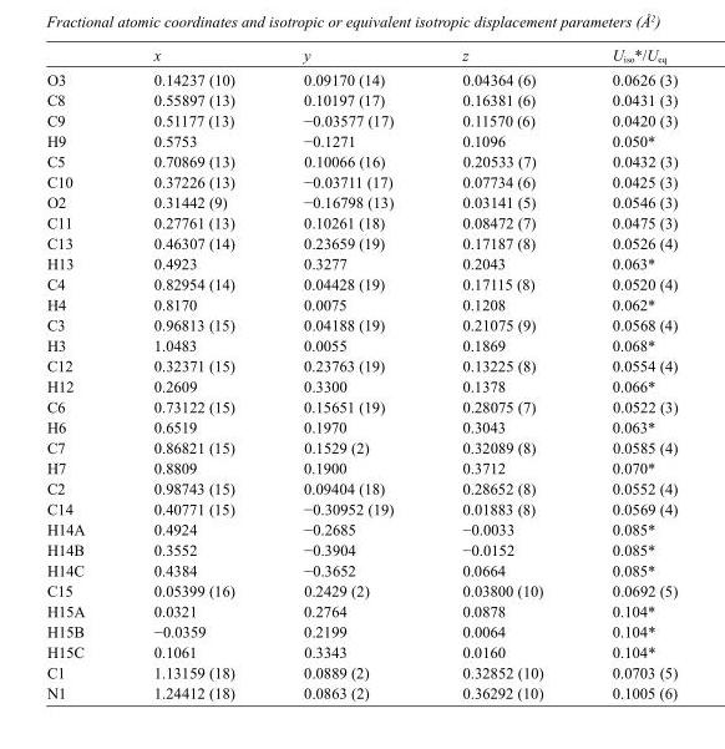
<table><thead><tr><td></td><td>x</td><td>y</td><td>z</td><td>U<sub>iso</sub>*/U<sub>eq</sub></td></tr></thead><tbody><tr><td>O3</td><td>0.14237 (10)</td><td>0.09170 (14)</td><td>0.04364 (6)</td><td>0.0626 (3)</td></tr><tr><td>C8</td><td>0.55897 (13)</td><td>0.10197 (17)</td><td>0.16381 (6)</td><td>0.0431 (3)</td></tr><tr><td>C9</td><td>0.51177 (13)</td><td>−0.03577 (17)</td><td>0.11570 (6)</td><td>0.0420 (3)</td></tr><tr><td>H9</td><td>0.5753</td><td>−0.1271</td><td>0.1096</td><td>0.050*</td></tr><tr><td>C5</td><td>0.70869 (13)</td><td>0.10066 (16)</td><td>0.20533 (7)</td><td>0.0432 (3)</td></tr><tr><td>C10</td><td>0.37226 (13)</td><td>−0.03711 (17)</td><td>0.07734 (6)</td><td>0.0425 (3)</td></tr><tr><td>O2</td><td>0.31442 (9)</td><td>−0.16798 (13)</td><td>0.03141 (5)</td><td>0.0546 (3)</td></tr><tr><td>C11</td><td>0.27761 (13)</td><td>0.10261 (18)</td><td>0.08472 (7)</td><td>0.0475 (3)</td></tr><tr><td>C13</td><td>0.46307 (14)</td><td>0.23659 (19)</td><td>0.17187 (8)</td><td>0.0526 (4)</td></tr><tr><td>H13</td><td>0.4923</td><td>0.3277</td><td>0.2043</td><td>0.063*</td></tr><tr><td>C4</td><td>0.82954 (14)</td><td>0.04428 (19)</td><td>0.17115 (8)</td><td>0.0520 (4)</td></tr><tr><td>H4</td><td>0.8170</td><td>0.0075</td><td>0.1208</td><td>0.062*</td></tr><tr><td>C3</td><td>0.96813 (15)</td><td>0.04188 (19)</td><td>0.21075 (9)</td><td>0.0568 (4)</td></tr><tr><td>H3</td><td>1.0483</td><td>0.0055</td><td>0.1869</td><td>0.068*</td></tr><tr><td>C12</td><td>0.32371 (15)</td><td>0.23763 (19)</td><td>0.13225 (8)</td><td>0.0554 (4)</td></tr><tr><td>H12</td><td>0.2609</td><td>0.3300</td><td>0.1378</td><td>0.066*</td></tr><tr><td>C6</td><td>0.73122 (15)</td><td>0.15651 (19)</td><td>0.28075 (7)</td><td>0.0522 (3)</td></tr><tr><td>H6</td><td>0.6519</td><td>0.1970</td><td>0.3043</td><td>0.063*</td></tr><tr><td>C7</td><td>0.86821 (15)</td><td>0.1529 (2)</td><td>0.32089 (8)</td><td>0.0585 (4)</td></tr><tr><td>H7</td><td>0.8809</td><td>0.1900</td><td>0.3712</td><td>0.070*</td></tr><tr><td>C2</td><td>0.98743 (15)</td><td>0.09404 (18)</td><td>0.28652 (8)</td><td>0.0552 (4)</td></tr><tr><td>C14</td><td>0.40771 (15)</td><td>−0.30952 (19)</td><td>0.01883 (8)</td><td>0.0569 (4)</td></tr><tr><td>H14A</td><td>0.4924</td><td>−0.2685</td><td>−0.0033</td><td>0.085*</td></tr><tr><td>H14B</td><td>0.3552</td><td>−0.3904</td><td>−0.0152</td><td>0.085*</td></tr><tr><td>H14C</td><td>0.4384</td><td>−0.3652</td><td>0.0664</td><td>0.085*</td></tr><tr><td>C15</td><td>0.05399 (16)</td><td>0.2429 (2)</td><td>0.03800 (10)</td><td>0.0692 (5)</td></tr><tr><td>H15A</td><td>0.0321</td><td>0.2764</td><td>0.0878</td><td>0.104*</td></tr><tr><td>H15B</td><td>−0.0359</td><td>0.2199</td><td>0.0064</td><td>0.104*</td></tr><tr><td>H15C</td><td>0.1061</td><td>0.3343</td><td>0.0160</td><td>0.104*</td></tr><tr><td>C1</td><td>1.13159 (18)</td><td>0.0889 (2)</td><td>0.32852 (10)</td><td>0.0703 (5)</td></tr><tr><td>N1</td><td>1.24412 (18)</td><td>0.0863 (2)</td><td>0.36292 (10)</td><td>0.1005 (6)</td></tr></tbody></table>